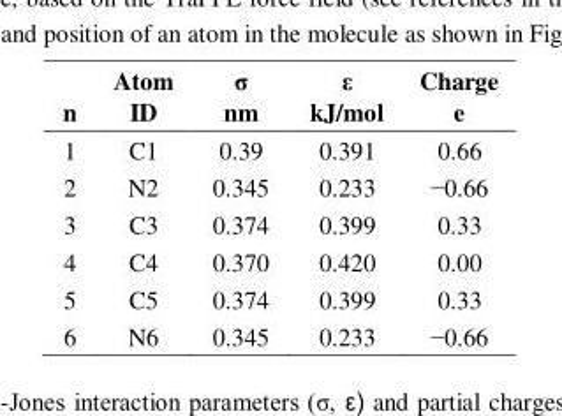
<table><thead><tr><td>n</td><td>Atom ID</td><td>σ nm</td><td>ε kJ/mol</td><td>Charge e</td></tr></thead><tbody><tr><td>1</td><td>C1</td><td>0.39</td><td>0.391</td><td>0.66</td></tr><tr><td>2</td><td>N2</td><td>0.345</td><td>0.233</td><td>−0.66</td></tr><tr><td>3</td><td>C3</td><td>0.374</td><td>0.399</td><td>0.33</td></tr><tr><td>4</td><td>C4</td><td>0.370</td><td>0.420</td><td>0.00</td></tr><tr><td>5</td><td>C5</td><td>0.374</td><td>0.399</td><td>0.33</td></tr><tr><td>6</td><td>N6</td><td>0.345</td><td>0.233</td><td>−0.66</td></tr></tbody></table>